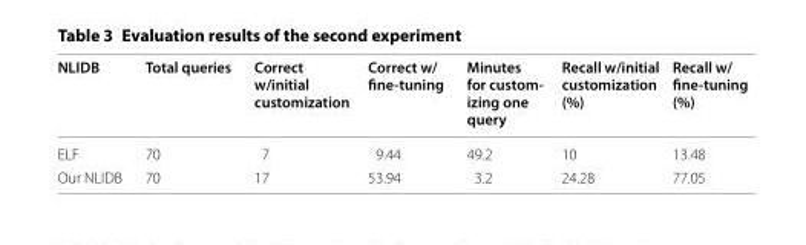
<table><thead><tr><td>NLIDB</td><td>Total queries</td><td>Correct w/initial customization</td><td>Correct w/ fine-tuning</td><td>Minutes for custom- izing one query</td><td>Recall w/initial customization (%)</td><td>Recall w/ fine-tuning (%)</td></tr></thead><tbody><tr><td>ELF</td><td>70</td><td>7</td><td>9.44</td><td>49.2</td><td>10</td><td>13.48</td></tr><tr><td>Our NLIDB</td><td>70</td><td>17</td><td>53.94</td><td>3.2</td><td>24.28</td><td>77.05</td></tr></tbody></table>